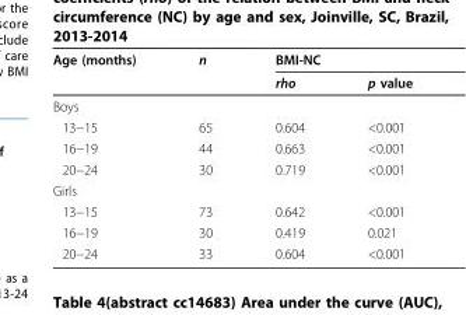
<table><thead><tr><td rowspan="2">Age (months)</td><td rowspan="2">n</td><td colspan="2">BMI-NC</td></tr><tr><td>rho</td><td>p value</td></tr></thead><tbody><tr><td colspan="4">Boys</td></tr><tr><td>13−15</td><td>65</td><td>0.604</td><td>&lt;0.001</td></tr><tr><td>16−19</td><td>44</td><td>0.663</td><td>&lt;0.001</td></tr><tr><td>20−24</td><td>30</td><td>0.719</td><td>&lt;0.001</td></tr><tr><td colspan="4">Girls</td></tr><tr><td>13−15</td><td>73</td><td>0.642</td><td>&lt;0.001</td></tr><tr><td>16−19</td><td>30</td><td>0.419</td><td>0.021</td></tr><tr><td>20−24</td><td>33</td><td>0.604</td><td>&lt;0.001</td></tr></tbody></table>